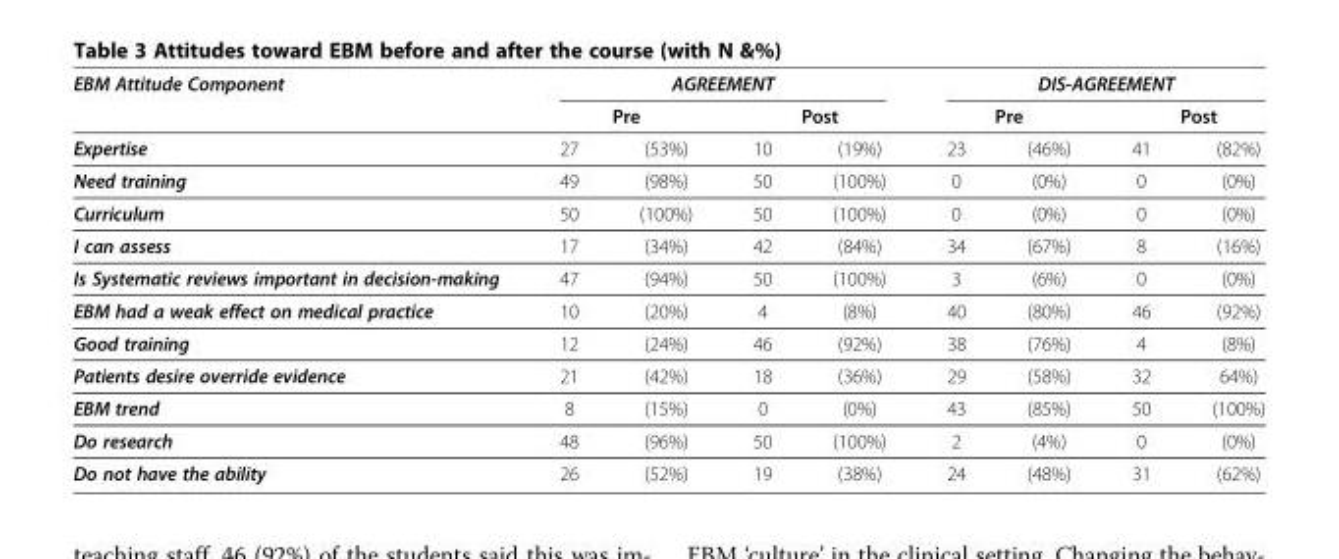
<table><thead><tr><td rowspan="3">EBM Attitude Component Expertise</td><td colspan="4">AGREEMENT</td><td colspan="4">DIS-AGREEMENT</td></tr><tr><td colspan="2">Pre</td><td colspan="2">Post</td><td colspan="2">Pre</td><td colspan="2">Post</td></tr><tr><td>27</td><td>(53%)</td><td>10</td><td>(19%)</td><td>23</td><td>(46%)</td><td>41</td><td>(82%)</td></tr></thead><tbody><tr><td>Need training</td><td>49</td><td>(98%)</td><td>50</td><td>(100%)</td><td>0</td><td>(0%)</td><td>0</td><td>(0%)</td></tr><tr><td>Curriculum</td><td>50</td><td>(100%)</td><td>50</td><td>(100%)</td><td>0</td><td>(0%)</td><td>0</td><td>(0%)</td></tr><tr><td>I can assess</td><td>17</td><td>(34%)</td><td>42</td><td>(84%)</td><td>34</td><td>(67%)</td><td>8</td><td>(16%)</td></tr><tr><td>Is Systematic reviews important in decision-making</td><td>47</td><td>(94%)</td><td>50</td><td>(100%)</td><td>3</td><td>(6%)</td><td>0</td><td>(0%)</td></tr><tr><td>EBM had a weak effect on medical practice</td><td>10</td><td>(20%)</td><td>4</td><td>(8%)</td><td>40</td><td>(80%)</td><td>46</td><td>(92%)</td></tr><tr><td>Good training</td><td>12</td><td>(24%)</td><td>46</td><td>(92%)</td><td>38</td><td>(76%)</td><td>4</td><td>(8%)</td></tr><tr><td>Patients desire override evidence</td><td>21</td><td>(42%)</td><td>18</td><td>(36%)</td><td>29</td><td>(58%)</td><td>32</td><td>64%)</td></tr><tr><td>EBM trend</td><td>8</td><td>(15%)</td><td>0</td><td>(0%)</td><td>43</td><td>(85%)</td><td>50</td><td>(100%)</td></tr><tr><td>Do research</td><td>48</td><td>(96%)</td><td>50</td><td>(100%)</td><td>2</td><td>(4%)</td><td>0</td><td>(0%)</td></tr><tr><td>Do not have the ability</td><td>26</td><td>(52%)</td><td>19</td><td>(38%)</td><td>24</td><td>(48%)</td><td>31</td><td>(62%)</td></tr></tbody></table>